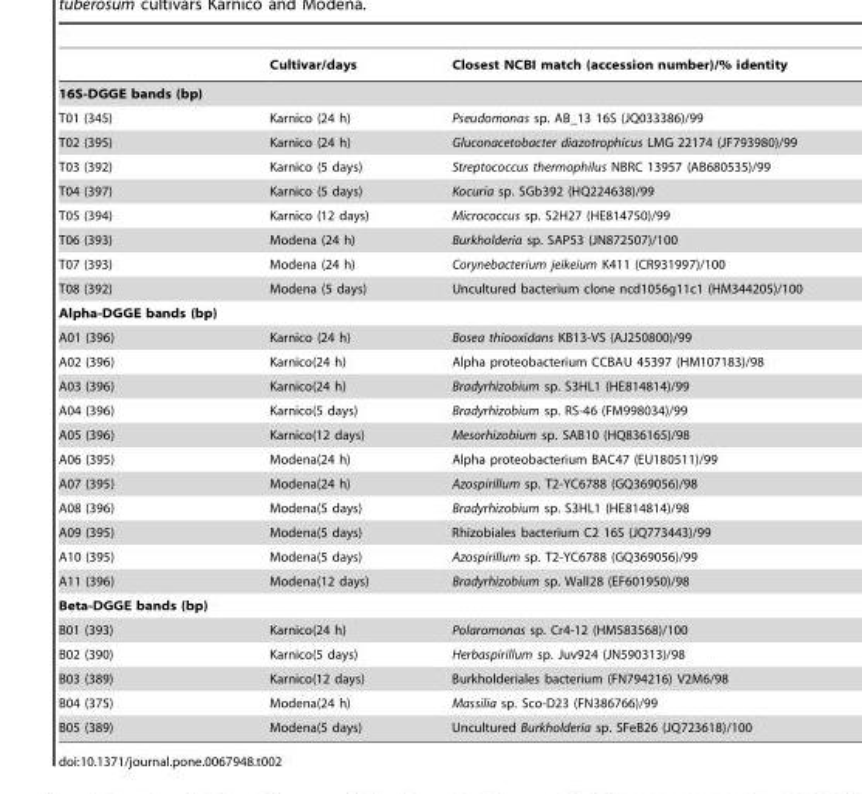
<table><thead><tr><td></td><td>Cultivar/days</td><td>Closest NCBI match (accession number)/% identity</td></tr></thead><tbody><tr><td colspan="3">16S-DGGE bands (bp)</td></tr><tr><td>T01 (345)</td><td>Karnico (24 h)</td><td>Pseudomonas sp. AB_13 16S (JQ033386)/99</td></tr><tr><td>T02 (395)</td><td>Karnico (24 h)</td><td>Gluconacetobacter diazotrophicus LMG 22174 (JF793980)/99</td></tr><tr><td>T03 (392)</td><td>Karnico (5 days)</td><td>Streptococcus thermophilus NBRC 13957 (AB680535)/99</td></tr><tr><td>T04 (397)</td><td>Karnico (5 days)</td><td>Kocuria sp. SGb392 (HQ224638)/99</td></tr><tr><td>T05 (394)</td><td>Karnico (12 days)</td><td>Micrococcus sp. S2H27 (HE814750)/99</td></tr><tr><td>T06 (393)</td><td>Modena (24 h)</td><td>Burkholderia sp. SAP53 (JN872507)/100</td></tr><tr><td>T07 (393)</td><td>Modena (24 h)</td><td>Corynebacterium jeikeium K411 (CR931997)/100</td></tr><tr><td>T08 (392)</td><td>Modena (5 days)</td><td>Uncultured bacterium clone ncd1056g11c1 (HM344205)/100</td></tr><tr><td colspan="3">Alpha-DGGE bands (bp)</td></tr><tr><td>A01 (396)</td><td>Karnico (24 h)</td><td>Bosea thiooxidans KB13-VS (AJ250800)/99</td></tr><tr><td>A02 (396)</td><td>Karnico(24 h)</td><td>Alpha proteobacterium CCBAU 45397 (HM107183)/98</td></tr><tr><td>A03 (396)</td><td>Karnico(24 h)</td><td>Bradyrhizobium sp. S3HL1 (HE814814)/99</td></tr><tr><td>A04 (396)</td><td>Karnico(5 days)</td><td>Bradyrhizobium sp. RS-46 (FM998034)/99</td></tr><tr><td>A05 (396)</td><td>Karnico(12 days)</td><td>Mesorhizobium sp. SAB10 (HQ836165)/98</td></tr><tr><td>A06 (395)</td><td>Modena(24 h)</td><td>Alpha proteobacterium BAC47 (EU180511)/99</td></tr><tr><td>A07 (395)</td><td>Modena(24 h)</td><td>Azospirillum sp. T2-YC6788 (GQ369056)/98</td></tr><tr><td>A08 (396)</td><td>Modena(5 days)</td><td>Bradyrhizobium sp. S3HL1 (HE814814)/98</td></tr><tr><td>A09 (395)</td><td>Modena(5 days)</td><td>Rhizobiales bacterium C2 16S (JQ773443)/99</td></tr><tr><td>A10 (395)</td><td>Modena(5 days)</td><td>Azospirillum sp. T2-YC6788 (GQ369056)/99</td></tr><tr><td>A11 (396)</td><td>Modena(12 days)</td><td>Bradyrhizobium sp. Wall28 (EF601950)/98</td></tr><tr><td colspan="3">Beta-DGGE bands (bp)</td></tr><tr><td>B01 (393)</td><td>Karnico(24 h)</td><td>Polaromonas sp. Cr4-12 (HM583568)/100</td></tr><tr><td>B02 (390)</td><td>Karnico(5 days)</td><td>Herbaspirillum sp. Juv924 (JN590313)/98</td></tr><tr><td>B03 (389)</td><td>Karnico(12 days)</td><td>Burkholderiales bacterium (FN794216) V2M6/98</td></tr><tr><td>B04 (375)</td><td>Modena(24 h)</td><td>Massilia sp. Sco-D23 (FN386766)/99</td></tr><tr><td>B05 (389)</td><td>Modena(5 days)</td><td>Uncultured Burkholderia sp. SFeB26 (JQ723618)/100</td></tr></tbody></table>